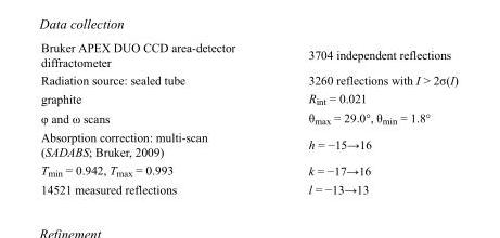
<table><tbody><tr><td>Bruker APEX DUO CCD area-detector diffractometer</td><td>3704 independent reflections</td></tr><tr><td>Radiation source: sealed tube</td><td>3260 reflections with I &gt; 2σ(I)</td></tr><tr><td>graphite</td><td>R<sub>int</sub> = 0.021</td></tr><tr><td>φ and ω scans</td><td>θ<sub>max</sub> = 29.0°, θ<sub>min</sub> = 1.8°</td></tr><tr><td>Absorption correction: multi-scan (SADABS; Bruker, 2009)</td><td>h = −15→16</td></tr><tr><td>T<sub>min</sub> = 0.942, T<sub>max</sub> = 0.993</td><td>k = −17→16</td></tr><tr><td>14521 measured reflections</td><td>l = −13→13</td></tr></tbody></table>